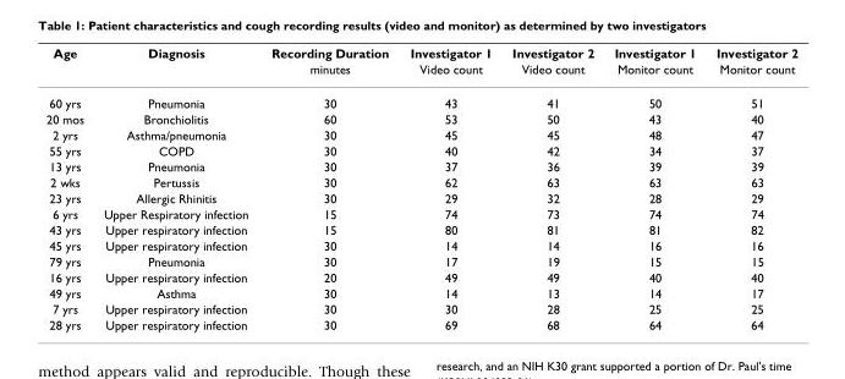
<table><thead><tr><td rowspan="2">Age</td><td rowspan="2">Diagnosis</td><td rowspan="2">Recording Duration minutes</td><td rowspan="2">Investigator 1 Video count</td><td rowspan="2">Investigator 2 Video count</td><td rowspan="2">Investigator 1 Monitor count</td><td rowspan="2">Investigator 2 Monitor count</td></tr><tr></tr></thead><tbody><tr><td>60 yrs</td><td>Pneumonia</td><td>30</td><td>43</td><td>41</td><td>50</td><td>51</td></tr><tr><td>20 mos</td><td>Bronchiolitis</td><td>60</td><td>53</td><td>50</td><td>43</td><td>40</td></tr><tr><td>2 yrs</td><td>Asthma/pneumonia</td><td>30</td><td>45</td><td>45</td><td>48</td><td>47</td></tr><tr><td>55 yrs</td><td>COPD</td><td>30</td><td>40</td><td>42</td><td>34</td><td>37</td></tr><tr><td>13 yrs</td><td>Pneumonia</td><td>30</td><td>37</td><td>36</td><td>39</td><td>39</td></tr><tr><td>2 wks</td><td>Pertussis</td><td>30</td><td>62</td><td>63</td><td>63</td><td>63</td></tr><tr><td>23 yrs</td><td>Allergic Rhinitis</td><td>30</td><td>29</td><td>32</td><td>28</td><td>29</td></tr><tr><td>6 yrs</td><td>Upper Respiratory infection</td><td>15</td><td>74</td><td>73</td><td>74</td><td>74</td></tr><tr><td>43 yrs</td><td>Upper respiratory infection</td><td>15</td><td>80</td><td>81</td><td>81</td><td>82</td></tr><tr><td>45 yrs</td><td>Upper respiratory infection</td><td>30</td><td>14</td><td>14</td><td>16</td><td>16</td></tr><tr><td>79 yrs</td><td>Pneumonia</td><td>30</td><td>17</td><td>19</td><td>15</td><td>15</td></tr><tr><td>16 yrs</td><td>Upper respiratory infection</td><td>20</td><td>49</td><td>49</td><td>40</td><td>40</td></tr><tr><td>49 yrs</td><td>Asthma</td><td>30</td><td>14</td><td>13</td><td>14</td><td>17</td></tr><tr><td>7 yrs</td><td>Upper respiratory infection</td><td>30</td><td>30</td><td>28</td><td>25</td><td>25</td></tr><tr><td>28 yrs</td><td>Upper respiratory infection</td><td>30</td><td>69</td><td>68</td><td>64</td><td>64</td></tr></tbody></table>